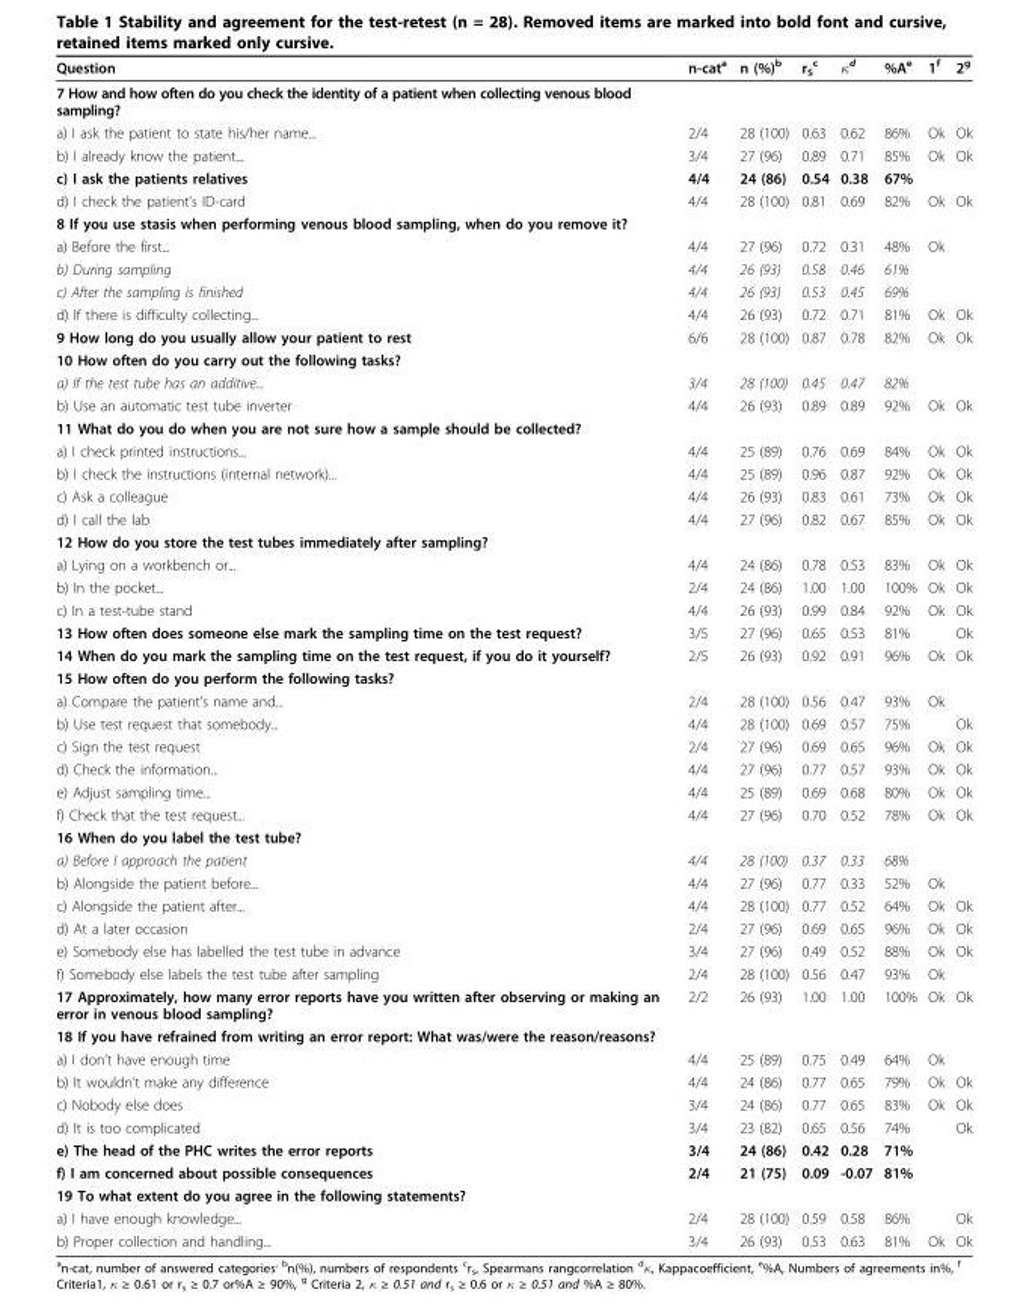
<table><thead><tr><td>Question</td><td>n-cat<sup>a</sup></td><td>n (%)<sup>b</sup></td><td>r<sub>S</sub> <sup>c</sup></td><td>κ<sup>d</sup></td><td>%A<sup>e</sup></td><td>1<sup>f</sup></td><td>2<sup>g</sup></td></tr></thead><tbody><tr><td colspan="8">7 How and how often do you check the identity of a patient when collecting venous blood sampling?</td></tr><tr><td>a) I ask the patient to state his/her name...</td><td>2/4</td><td>28 (100)</td><td>0.63</td><td>0.62</td><td>86%</td><td>Ok</td><td>Ok</td></tr><tr><td>b) I already know the patient...</td><td>3/4</td><td>27 (96)</td><td>0.89</td><td>0.71</td><td>85%</td><td>Ok</td><td>Ok</td></tr><tr><td>c) I ask the patients relatives</td><td>4/4</td><td>24 (86)</td><td>0.54</td><td>0.38</td><td>67%</td><td></td><td></td></tr><tr><td>d) I check the patient’s ID-card</td><td>4/4</td><td>28 (100)</td><td>0.81</td><td>0.69</td><td>82%</td><td>Ok</td><td>Ok</td></tr><tr><td colspan="8">8 If you use stasis when performing venous blood sampling, when do you remove it?</td></tr><tr><td>a) Before the first...</td><td>4/4</td><td>27 (96)</td><td>0.72</td><td>0.31</td><td>48%</td><td>Ok</td><td></td></tr><tr><td>b) During sampling</td><td>4/4</td><td>26 (93)</td><td>0.58</td><td>0.46</td><td>61%</td><td></td><td></td></tr><tr><td>c) After the sampling is finished</td><td>4/4</td><td>26 (93)</td><td>0.53</td><td>0.45</td><td>69%</td><td></td><td></td></tr><tr><td>d) If there is difficulty collecting...</td><td>4/4</td><td>26 (93)</td><td>0.72</td><td>0.71</td><td>81%</td><td>Ok</td><td>Ok</td></tr><tr><td>9 How long do you usually allow your patient to rest</td><td>6/6</td><td>28 (100)</td><td>0.87</td><td>0.78</td><td>82%</td><td>Ok</td><td>Ok</td></tr><tr><td colspan="8">10 How often do you carry out the following tasks?</td></tr><tr><td>a) If the test tube has an additive...</td><td>3/4</td><td>28 (100)</td><td>0.45</td><td>0.47</td><td>82%</td><td></td><td></td></tr><tr><td>b) Use an automatic test tube inverter</td><td>4/4</td><td>26 (93)</td><td>0.89</td><td>0.89</td><td>92%</td><td>Ok</td><td>Ok</td></tr><tr><td colspan="8">11 What do you do when you are not sure how a sample should be collected?</td></tr><tr><td>a) I check printed instructions...</td><td>4/4</td><td>25 (89)</td><td>0.76</td><td>0.69</td><td>84%</td><td>Ok</td><td>Ok</td></tr><tr><td>b) I check the instructions (internal network)...</td><td>4/4</td><td>25 (89)</td><td>0.96</td><td>0.87</td><td>92%</td><td>Ok</td><td>Ok</td></tr><tr><td>c) Ask a colleague</td><td>4/4</td><td>26 (93)</td><td>0.83</td><td>0.61</td><td>73%</td><td>Ok</td><td>Ok</td></tr><tr><td>d) I call the lab</td><td>4/4</td><td>27 (96)</td><td>0.82</td><td>0.67</td><td>85%</td><td>Ok</td><td>Ok</td></tr><tr><td colspan="8">12 How do you store the test tubes immediately after sampling?</td></tr><tr><td>a) Lying on a workbench or...</td><td>4/4</td><td>24 (86)</td><td>0.78</td><td>0.53</td><td>83%</td><td>Ok</td><td>Ok</td></tr><tr><td>b) In the pocket...</td><td>2/4</td><td>24 (86)</td><td>1.00</td><td>1.00</td><td>100%</td><td>Ok</td><td>Ok</td></tr><tr><td>c) In a test-tube stand</td><td>4/4</td><td>26 (93)</td><td>0.99</td><td>0.84</td><td>92%</td><td>Ok</td><td>Ok</td></tr><tr><td>13 How often does someone else mark the sampling time on the test request?</td><td>3/5</td><td>27 (96)</td><td>0.65</td><td>0.53</td><td>81%</td><td></td><td>Ok</td></tr><tr><td>14 When do you mark the sampling time on the test request, if you do it yourself?</td><td>2/5</td><td>26 (93)</td><td>0.92</td><td>0.91</td><td>96%</td><td>Ok</td><td>Ok</td></tr><tr><td colspan="8">15 How often do you perform the following tasks?</td></tr><tr><td>a) Compare the patient’s name and...</td><td>2/4</td><td>28 (100)</td><td>0.56</td><td>0.47</td><td>93%</td><td>Ok</td><td></td></tr><tr><td>b) Use test request that somebody...</td><td>4/4</td><td>28 (100)</td><td>0.69</td><td>0.57</td><td>75%</td><td></td><td>Ok</td></tr><tr><td>c) Sign the test request</td><td>2/4</td><td>27 (96)</td><td>0.69</td><td>0.65</td><td>96%</td><td>Ok</td><td>Ok</td></tr><tr><td>d) Check the information...</td><td>4/4</td><td>27 (96)</td><td>0.77</td><td>0.57</td><td>93%</td><td>Ok</td><td>Ok</td></tr><tr><td>e) Adjust sampling time...</td><td>4/4</td><td>25 (89)</td><td>0.69</td><td>0.68</td><td>80%</td><td>Ok</td><td>Ok</td></tr><tr><td>f) Check that the test request...</td><td>4/4</td><td>27 (96)</td><td>0.70</td><td>0.52</td><td>78%</td><td>Ok</td><td>Ok</td></tr><tr><td colspan="8">16 When do you label the test tube?</td></tr><tr><td>a) Before I approach the patient</td><td>4/4</td><td>28 (100)</td><td>0.37</td><td>0.33</td><td>68%</td><td></td><td></td></tr><tr><td>b) Alongside the patient before...</td><td>4/4</td><td>27 (96)</td><td>0.77</td><td>0.33</td><td>52%</td><td>Ok</td><td></td></tr><tr><td>c) Alongside the patient after...</td><td>4/4</td><td>28 (100)</td><td>0.77</td><td>0.52</td><td>64%</td><td>Ok</td><td>Ok</td></tr><tr><td>d) At a later occasion</td><td>2/4</td><td>27 (96)</td><td>0.69</td><td>0.65</td><td>96%</td><td>Ok</td><td>Ok</td></tr><tr><td>e) Somebody else has labelled the test tube in advance</td><td>3/4</td><td>27 (96)</td><td>0.49</td><td>0.52</td><td>88%</td><td>Ok</td><td>Ok</td></tr><tr><td>f) Somebody else labels the test tube after sampling</td><td>2/4</td><td>28 (100)</td><td>0.56</td><td>0.47</td><td>93%</td><td>Ok</td><td></td></tr><tr><td>17 Approximately, how many error reports have you written after observing or making an error in venous blood sampling?</td><td>2/2</td><td>26 (93)</td><td>1.00</td><td>1.00</td><td>100%</td><td>Ok</td><td>Ok</td></tr><tr><td colspan="8">18 If you have refrained from writing an error report: What was/were the reason/reasons?</td></tr><tr><td>a) I don’t have enough time</td><td>4/4</td><td>25 (89)</td><td>0.75</td><td>0.49</td><td>64%</td><td>Ok</td><td></td></tr><tr><td>b) It wouldn’t make any difference</td><td>4/4</td><td>24 (86)</td><td>0.77</td><td>0.65</td><td>79%</td><td>Ok</td><td>Ok</td></tr><tr><td>c) Nobody else does</td><td>3/4</td><td>24 (86)</td><td>0.77</td><td>0.65</td><td>83%</td><td>Ok</td><td>Ok</td></tr><tr><td>d) It is too complicated</td><td>3/4</td><td>23 (82)</td><td>0.65</td><td>0.56</td><td>74%</td><td></td><td>Ok</td></tr><tr><td>e) The head of the PHC writes the error reports</td><td>3/4</td><td>24 (86)</td><td>0.42</td><td>0.28</td><td>71%</td><td></td><td></td></tr><tr><td>f) I am concerned about possible consequences</td><td>2/4</td><td>21 (75)</td><td>0.09</td><td>-0.07</td><td>81%</td><td></td><td></td></tr><tr><td colspan="8">19 To what extent do you agree in the following statements?</td></tr><tr><td>a) I have enough knowledge...</td><td>2/4</td><td>28 (100)</td><td>0.59</td><td>0.58</td><td>86%</td><td></td><td>Ok</td></tr><tr><td>b) Proper collection and handling...</td><td>3/4</td><td>26 (93)</td><td>0.53</td><td>0.63</td><td>81%</td><td>Ok</td><td>Ok</td></tr></tbody></table>